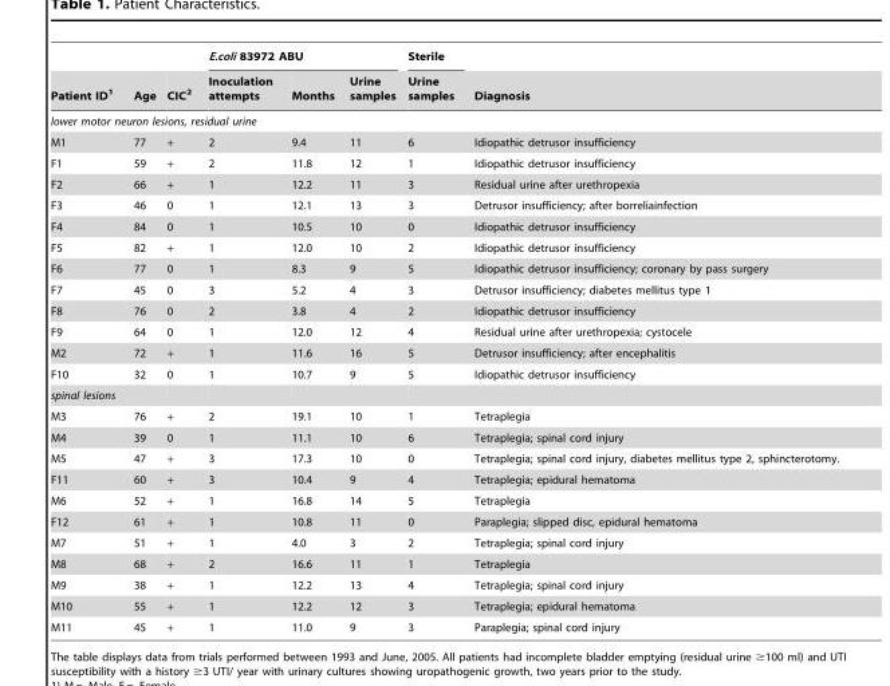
<table><thead><tr><td rowspan="2">Patient ID<sup>1</sup></td><td rowspan="2">Age</td><td rowspan="2">CIC<sup>2</sup></td><td colspan="3">E.coli 83972 ABU</td><td rowspan="2">Sterile Urine samples</td><td rowspan="2">Diagnosis</td></tr><tr><td>Inoculation attempts</td><td>Months</td><td>Urine samples</td></tr></thead><tbody><tr><td colspan="8">lower motor neuron lesions, residual urine</td></tr><tr><td>M1</td><td>77</td><td>+</td><td>2</td><td>9.4</td><td>11</td><td>6</td><td>Idiopathic detrusor insufficiency</td></tr><tr><td>F1</td><td>59</td><td>+</td><td>2</td><td>11.8</td><td>12</td><td>1</td><td>Idiopathic detrusor insufficiency</td></tr><tr><td>F2</td><td>66</td><td>+</td><td>1</td><td>12.2</td><td>11</td><td>3</td><td>Residual urine after urethropexia</td></tr><tr><td>F3</td><td>46</td><td>0</td><td>1</td><td>12.1</td><td>13</td><td>3</td><td>Detrusor insufficiency; after borreliainfection</td></tr><tr><td>F4</td><td>84</td><td>0</td><td>1</td><td>10.5</td><td>10</td><td>0</td><td>Idiopathic detrusor insufficiency</td></tr><tr><td>F5</td><td>82</td><td>+</td><td>1</td><td>12.0</td><td>10</td><td>2</td><td>Idiopathic detrusor insufficiency</td></tr><tr><td>F6</td><td>77</td><td>0</td><td>1</td><td>8.3</td><td>9</td><td>5</td><td>Idiopathic detrusor insufficiency; coronary by pass surgery</td></tr><tr><td>F7</td><td>45</td><td>0</td><td>3</td><td>5.2</td><td>4</td><td>3</td><td>Detrusor insufficiency; diabetes mellitus type 1</td></tr><tr><td>F8</td><td>76</td><td>0</td><td>2</td><td>3.8</td><td>4</td><td>2</td><td>Idiopathic detrusor insufficiency</td></tr><tr><td>F9</td><td>64</td><td>0</td><td>1</td><td>12.0</td><td>12</td><td>4</td><td>Residual urine after urethropexia; cystocele</td></tr><tr><td>M2</td><td>72</td><td>+</td><td>1</td><td>11.6</td><td>16</td><td>5</td><td>Detrusor insufficiency; after encephalitis</td></tr><tr><td>F10</td><td>32</td><td>0</td><td>1</td><td>10.7</td><td>9</td><td>5</td><td>Idiopathic detrusor insufficiency</td></tr><tr><td colspan="8">spinal lesions</td></tr><tr><td>M3</td><td>76</td><td>+</td><td>2</td><td>19.1</td><td>10</td><td>1</td><td>Tetraplegia</td></tr><tr><td>M4</td><td>39</td><td>0</td><td>1</td><td>11.1</td><td>10</td><td>6</td><td>Tetraplegia; spinal cord injury</td></tr><tr><td>M5</td><td>47</td><td>+</td><td>3</td><td>17.3</td><td>10</td><td>0</td><td>Tetraplegia; spinal cord injury, diabetes mellitus type 2, sphincterotomy.</td></tr><tr><td>F11</td><td>60</td><td>+</td><td>3</td><td>10.4</td><td>9</td><td>4</td><td>Tetraplegia; epidural hematoma</td></tr><tr><td>M6</td><td>52</td><td>+</td><td>1</td><td>16.8</td><td>14</td><td>5</td><td>Tetraplegia</td></tr><tr><td>F12</td><td>61</td><td>+</td><td>1</td><td>10.8</td><td>11</td><td>0</td><td>Paraplegia; slipped disc, epidural hematoma</td></tr><tr><td>M7</td><td>51</td><td>+</td><td>1</td><td>4.0</td><td>3</td><td>2</td><td>Tetraplegia; spinal cord injury</td></tr><tr><td>M8</td><td>68</td><td>+</td><td>2</td><td>16.6</td><td>11</td><td>1</td><td>Tetraplegia</td></tr><tr><td>M9</td><td>38</td><td>+</td><td>1</td><td>12.2</td><td>13</td><td>4</td><td>Tetraplegia; spinal cord injury</td></tr><tr><td>M10</td><td>55</td><td>+</td><td>1</td><td>12.2</td><td>12</td><td>3</td><td>Tetraplegia; epidural hematoma</td></tr><tr><td>M11</td><td>45</td><td>+</td><td>1</td><td>11.0</td><td>9</td><td>3</td><td>Paraplegia; spinal cord injury</td></tr></tbody></table>